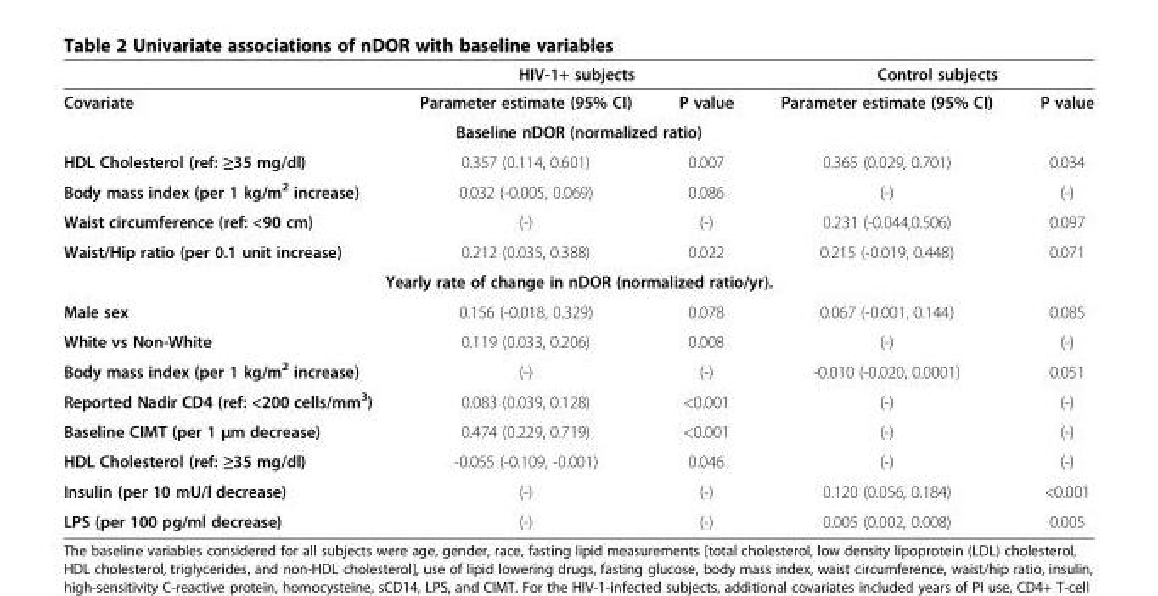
<table><thead><tr><td rowspan="2">Covariate</td><td colspan="2">HIV-1+ subjects</td><td colspan="2">Control subjects</td></tr><tr><td>Parameter estimate (95% CI)</td><td>P value</td><td>Parameter estimate (95% CI)</td><td>P value</td></tr></thead><tbody><tr><td></td><td colspan="2">Baseline nDOR (normalized ratio)</td><td></td><td></td></tr><tr><td>HDL Cholesterol (ref: ≥35 mg/dl)</td><td>0.357 (0.114, 0.601)</td><td>0.007</td><td>0.365 (0.029, 0.701)</td><td>0.034</td></tr><tr><td>Body mass index (per 1 kg/m<sup>2</sup> increase)</td><td>0.032 (-0.005, 0.069)</td><td>0.086</td><td>(-)</td><td>(-)</td></tr><tr><td>Waist circumference (ref: &lt;90 cm)</td><td>(-)</td><td>(-)</td><td>0.231 (-0.044,0.506)</td><td>0.097</td></tr><tr><td rowspan="2">Waist/Hip ratio (per 0.1 unit increase)</td><td>0.212 (0.035, 0.388)</td><td>0.022</td><td>0.215 (-0.019, 0.448)</td><td>0.071</td></tr><tr><td colspan="2">Yearly rate of change in nDOR (normalized ratio/yr).</td><td></td><td></td></tr><tr><td>Male sex</td><td>0.156 (-0.018, 0.329)</td><td>0.078</td><td>0.067 (-0.001, 0.144)</td><td>0.085</td></tr><tr><td>White vs Non-White</td><td>0.119 (0.033, 0.206)</td><td>0.008</td><td>(-)</td><td>(-)</td></tr><tr><td>Body mass index (per 1 kg/m<sup>2</sup> increase)</td><td>(-)</td><td>(-)</td><td>-0.010 (-0.020, 0.0001)</td><td>0.051</td></tr><tr><td>Reported Nadir CD4 (ref: &lt;200 cells/mm<sup>3</sup>)</td><td>0.083 (0.039, 0.128)</td><td>&lt;0.001</td><td>(-)</td><td>(-)</td></tr><tr><td>Baseline CIMT (per 1 μm decrease)</td><td>0.474 (0.229, 0.719)</td><td>&lt;0.001</td><td>(-)</td><td>(-)</td></tr><tr><td>HDL Cholesterol (ref: ≥35 mg/dl)</td><td>-0.055 (-0.109, -0.001)</td><td>0.046</td><td>(-)</td><td>(-)</td></tr><tr><td>Insulin (per 10 mU/l decrease)</td><td>(-)</td><td>(-)</td><td>0.120 (0.056, 0.184)</td><td>&lt;0.001</td></tr><tr><td>LPS (per 100 pg/ml decrease)</td><td>(-)</td><td>(-)</td><td>0.005 (0.002, 0.008)</td><td>0.005</td></tr></tbody></table>